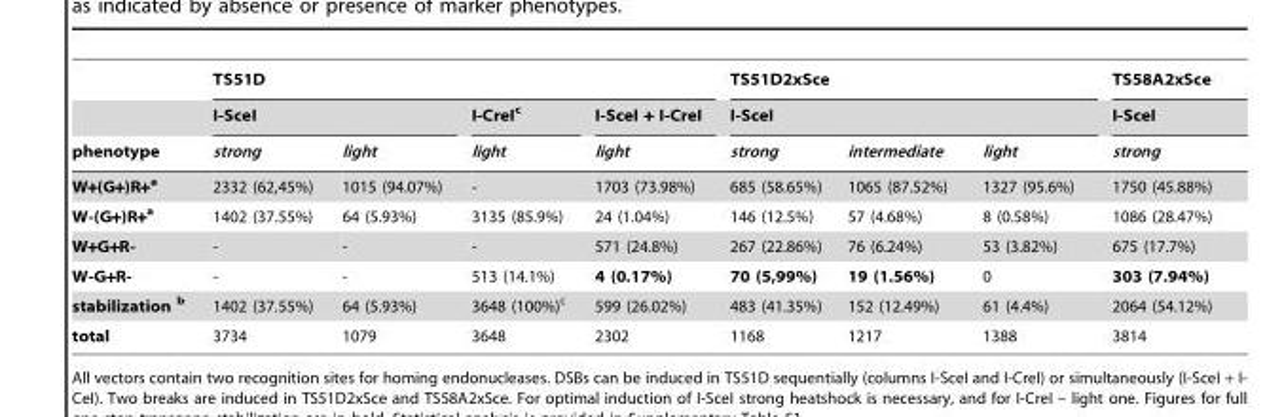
<table><thead><tr><td rowspan="3">phenotype</td><td colspan="4">TS51D</td><td rowspan="2" colspan="3">TS51D2xSce I-SceI</td><td rowspan="3">TS58A2xSce I-SceI strong</td></tr><tr><td colspan="2">I-SceI</td><td rowspan="2">I-CreI<sup>c</sup> light</td><td rowspan="2">I-SceI + I-CreI light</td></tr><tr><td>strong</td><td>light</td><td>strong</td><td>intermediate</td><td>light</td></tr></thead><tbody><tr><td>W+(G+)R+a</td><td>2332 (62,45%)</td><td>1015 (94.07%)</td><td>-</td><td>1703 (73.98%)</td><td>685 (58.65%)</td><td>1065 (87.52%)</td><td>1327 (95.6%)</td><td>1750 (45.88%)</td></tr><tr><td>W-(G+)R+a</td><td>1402 (37.55%)</td><td>64 (5.93%)</td><td>3135 (85.9%)</td><td>24 (1.04%)</td><td>146 (12.5%)</td><td>57 (4.68%)</td><td>8 (0.58%)</td><td>1086 (28.47%)</td></tr><tr><td>W+G+R-</td><td>-</td><td>-</td><td>-</td><td>571 (24.8%)</td><td>267 (22.86%)</td><td>76 (6.24%)</td><td>53 (3.82%)</td><td>675 (17.7%)</td></tr><tr><td>W-G+R-</td><td>-</td><td>-</td><td>513 (14.1%)</td><td>4 (0.17%)</td><td>70 (5,99%)</td><td>19 (1.56%)</td><td>0</td><td>303 (7.94%)</td></tr><tr><td>stabilization b</td><td>1402 (37.55%)</td><td>64 (5.93%)</td><td>3648 (100%)<sup>c</sup></td><td>599 (26.02%)</td><td>483 (41.35%)</td><td>152 (12.49%)</td><td>61 (4.4%)</td><td>2064 (54.12%)</td></tr><tr><td>total</td><td>3734</td><td>1079</td><td>3648</td><td>2302</td><td>1168</td><td>1217</td><td>1388</td><td>3814</td></tr></tbody></table>